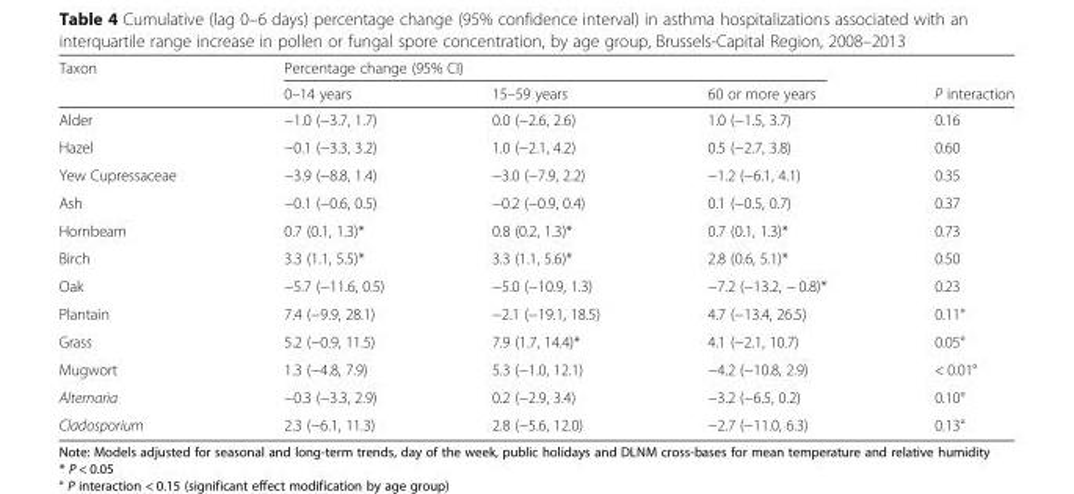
<table><thead><tr><td rowspan="2">Taxon</td><td colspan="3">Percentage change (95% CI)</td><td rowspan="2">P interaction</td></tr><tr><td>0–14 years</td><td>15–59 years</td><td>60 or more years</td></tr></thead><tbody><tr><td>Alder</td><td>−1.0 (−3.7, 1.7)</td><td>0.0 (−2.6, 2.6)</td><td>1.0 (−1.5, 3.7)</td><td>0.16</td></tr><tr><td>Hazel</td><td>−0.1 (−3.3, 3.2)</td><td>1.0 (−2.1, 4.2)</td><td>0.5 (−2.7, 3.8)</td><td>0.60</td></tr><tr><td>Yew Cupressaceae</td><td>−3.9 (−8.8, 1.4)</td><td>−3.0 (−7.9, 2.2)</td><td>−1.2 (−6.1, 4.1)</td><td>0.35</td></tr><tr><td>Ash</td><td>−0.1 (−0.6, 0.5)</td><td>−0.2 (−0.9, 0.4)</td><td>0.1 (−0.5, 0.7)</td><td>0.37</td></tr><tr><td>Hornbeam</td><td>0.7 (0.1, 1.3)*</td><td>0.8 (0.2, 1.3)*</td><td>0.7 (0.1, 1.3)*</td><td>0.73</td></tr><tr><td>Birch</td><td>3.3 (1.1, 5.5)*</td><td>3.3 (1.1, 5.6)*</td><td>2.8 (0.6, 5.1)*</td><td>0.50</td></tr><tr><td>Oak</td><td>−5.7 (−11.6, 0.5)</td><td>−5.0 (−10.9, 1.3)</td><td>−7.2 (−13.2, − 0.8)*</td><td>0.23</td></tr><tr><td>Plantain</td><td>7.4 (−9.9, 28.1)</td><td>−2.1 (−19.1, 18.5)</td><td>4.7 (−13.4, 26.5)</td><td>0.11°</td></tr><tr><td>Grass</td><td>5.2 (−0.9, 11.5)</td><td>7.9 (1.7, 14.4)*</td><td>4.1 (−2.1, 10.7)</td><td>0.05°</td></tr><tr><td>Mugwort</td><td>1.3 (−4.8, 7.9)</td><td>5.3 (−1.0, 12.1)</td><td>−4.2 (−10.8, 2.9)</td><td>&lt; 0.01°</td></tr><tr><td>Alternaria</td><td>−0.3 (−3.3, 2.9)</td><td>0.2 (−2.9, 3.4)</td><td>−3.2 (−6.5, 0.2)</td><td>0.10°</td></tr><tr><td>Cladosporium</td><td>2.3 (−6.1, 11.3)</td><td>2.8 (−5.6, 12.0)</td><td>−2.7 (−11.0, 6.3)</td><td>0.13°</td></tr></tbody></table>